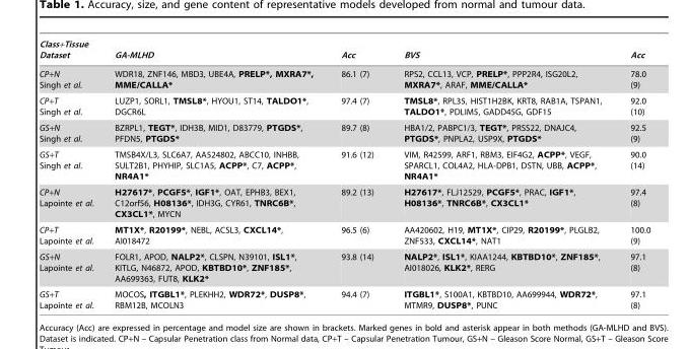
<table><thead><tr><td>Class+Tissue Dataset</td><td>GA-MLHD</td><td>Acc</td><td>BVS</td><td>Acc</td></tr></thead><tbody><tr><td>CP+N Singh et al.</td><td>WDR18, ZNF146, MBD3, UBE4A, PRELP*, MXRA7*, MME/CALLA*</td><td>86.1 (7)</td><td>RPS2, CCL13, VCP, PRELP*, PPP2R4, ISG20L2, MXRA7*, ARAF, MME/CALLA*</td><td>78.0 (9)</td></tr><tr><td>CP+T Singh et al.</td><td>LUZP1, SORL1, TMSL8*, HYOU1, ST14, TALDO1*, DGCR6L</td><td>97.4 (7)</td><td>TMSL8*, RPL35, HIST1H2BK, KRT8, RAB1A, TSPAN1, TALDO1*, PDLIM5, GADD45G, GDF15</td><td>92.0 (10)</td></tr><tr><td>GS+N Singh et al.</td><td>BZRPL1, TEGT*, IDH3B, MID1, D83779, PTGDS*, PFDN5, PTGDS*</td><td>89.7 (8)</td><td>HBA1/2, PABPC1/3, TEGT*, PRSS22, DNAJC4, PTGDS*, PNPLA2, USP9X, PTGDS*</td><td>92.5 (9)</td></tr><tr><td>GS+T Singh et al.</td><td>TMSB4X/L3, SLC6A7, AA524802, ABCC10, INHBB, SULT2B1, PHYHIP, SLC1A5, ACPP*, C7, ACPP*, NR4A1*</td><td>91.6 (12)</td><td>VIM, R42599, ARF1, RBM3, EIF4G2, ACPP*, VEGF, SPARCL1, COL4A2, HLA-DPB1, DSTN, UBB, ACPP*, NR4A1*</td><td>90.0 (14)</td></tr><tr><td>CP+N Lapointe et al.</td><td>H27617*, PCGF5*, IGF1*, OAT, EPHB3, BEX1, C12orf56, H08136*, IDH3G, CYR61, TNRC6B*, CX3CL1*, MYCN</td><td>89.2 (13)</td><td>H27617*, FLJ12529, PCGF5*, PRAC, IGF1*, H08136*, TNRC6B*, CX3CL1*</td><td>97.4 (8)</td></tr><tr><td>CP+T Lapointe et al.</td><td>MT1X*, R20199*, NEBL, ACSL3, CXCL14*, AI018472</td><td>96.5 (6)</td><td>AA420602, H19, MT1X*, CIP29, R20199*, PLGLB2, ZNF533, CXCL14*, NAT1</td><td>100.0 (9)</td></tr><tr><td>GS+N Lapointe et al.</td><td>FOLR1, APOD, NALP2*, CLSPN, N39101, ISL1*, KITLG, N46872, APOD, KBTBD10*, ZNF185*, AA699363, FUT8, KLK2*</td><td>93.8 (14)</td><td>NALP2*, ISL1*, KIAA1244, KBTBD10*, ZNF185*, AI018026, KLK2*, RERG</td><td>97.1 (8)</td></tr><tr><td>GS+T Lapointe et al.</td><td>MOCOS, ITGBL1*, PLEKHH2, WDR72*, DUSP8*, RBM12B, MCOLN3</td><td>94.4 (7)</td><td>ITGBL1*, S100A1, KBTBD10, AA699944, WDR72*, MTMR9, DUSP8*, PUNC</td><td>97.1 (8)</td></tr></tbody></table>